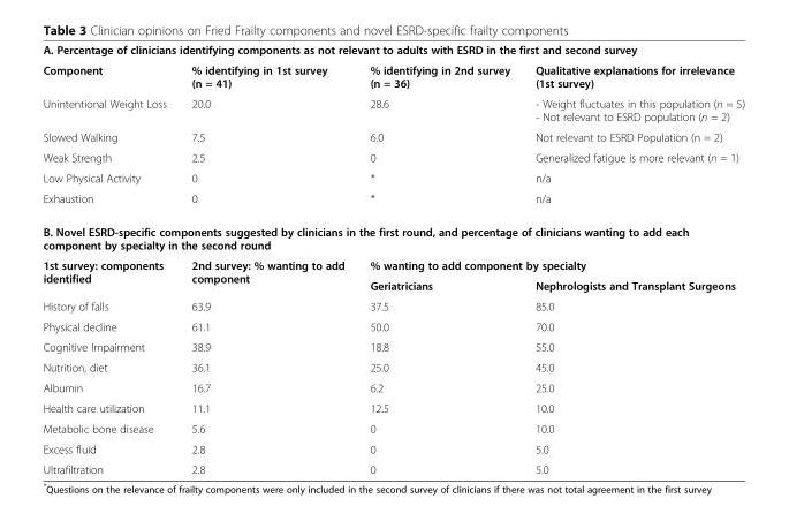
<table><tbody><tr><td colspan="4">A. Percentage of clinicians identifying components as not relevant to adults with ESRD in the first and second survey</td></tr><tr><td>Component</td><td>% identifying in 1st survey (n = 41)</td><td>% identifying in 2nd survey (n = 36)</td><td>Qualitative explanations for irrelevance (1st survey)</td></tr><tr><td>Unintentional Weight Loss</td><td>20.0</td><td>28.6</td><td>- Weight fluctuates in this population (n = 5) - Not relevant to ESRD population (n = 2)</td></tr><tr><td>Slowed Walking</td><td>7.5</td><td>6.0</td><td>Not relevant to ESRD Population (n = 2)</td></tr><tr><td>Weak Strength</td><td>2.5</td><td>0</td><td>Generalized fatigue is more relevant (n = 1)</td></tr><tr><td>Low Physical Activity</td><td>0</td><td>*</td><td>n/a</td></tr><tr><td>Exhaustion</td><td>0</td><td>*</td><td>n/a</td></tr><tr><td colspan="4">B. Novel ESRD-specific components suggested by clinicians in the first round, and percentage of clinicians wanting to add each component by specialty in the second round</td></tr><tr><td rowspan="2">1st survey: components identified</td><td rowspan="2">2nd survey: % wanting to add component</td><td colspan="2">% wanting to add component by specialty</td></tr><tr><td>Geriatricians</td><td>Nephrologists and Transplant Surgeons</td></tr><tr><td>History of falls</td><td>63.9</td><td>37.5</td><td>85.0</td></tr><tr><td>Physical decline</td><td>61.1</td><td>50.0</td><td>70.0</td></tr><tr><td>Cognitive Impairment</td><td>38.9</td><td>18.8</td><td>55.0</td></tr><tr><td>Nutrition, diet</td><td>36.1</td><td>25.0</td><td>45.0</td></tr><tr><td>Albumin</td><td>16.7</td><td>6.2</td><td>25.0</td></tr><tr><td>Health care utilization</td><td>11.1</td><td>12.5</td><td>10.0</td></tr><tr><td>Metabolic bone disease</td><td>5.6</td><td>0</td><td>10.0</td></tr><tr><td>Excess fluid</td><td>2.8</td><td>0</td><td>5.0</td></tr><tr><td>Ultrafiltration</td><td>2.8</td><td>0</td><td>5.0</td></tr></tbody></table>